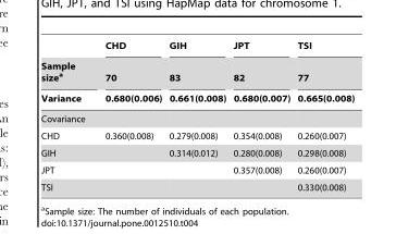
<table><thead><tr><td rowspan="3">Sample size<sup>a</sup> Variance</td><td rowspan="3">CHD 70 0.680(0.006)</td><td rowspan="3">GIH 83 0.661(0.008)</td><td rowspan="3">JPT 82 0.680(0.007)</td><td rowspan="3">TSI 77 0.665(0.008)</td></tr><tr></tr><tr></tr></thead><tbody><tr><td colspan="5">Covariance</td></tr><tr><td>CHD</td><td>0.360(0.008)</td><td>0.279(0.008)</td><td>0.354(0.008)</td><td>0.260(0.007)</td></tr><tr><td>GIH</td><td></td><td>0.314(0.012)</td><td>0.280(0.008)</td><td>0.298(0.008)</td></tr><tr><td>JPT</td><td></td><td></td><td>0.357(0.008)</td><td>0.260(0.007)</td></tr><tr><td>TSI</td><td></td><td></td><td></td><td>0.330(0.008)</td></tr></tbody></table>